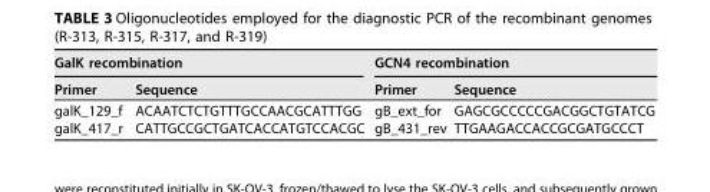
<table><thead><tr><td colspan="2">GalK recombination</td><td colspan="2">GCN4 recombination</td></tr><tr><td>Primer</td><td>Sequence</td><td>Primer</td><td>Sequence</td></tr></thead><tbody><tr><td>galK_129_f</td><td>ACAATCTCTGTTTGCCAACGCATTTGG</td><td>gB_ext_for</td><td>GAGCGCCCCCGACGGCTGTATCG</td></tr><tr><td>galK_417_r</td><td>CATTGCCGCTGATCACCATGTCCACGC</td><td>gB_431_rev</td><td>TTGAAGACCACCGCGATGCCCT</td></tr></tbody></table>